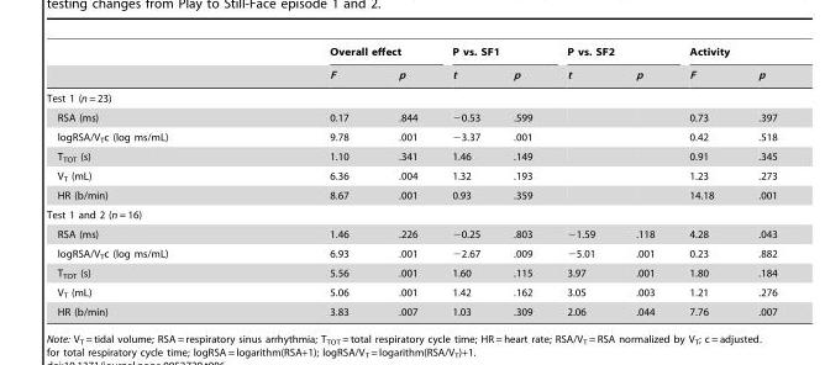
<table><thead><tr><td rowspan="2"></td><td colspan="2">Overall effect</td><td colspan="2">P vs. SF1</td><td colspan="2">P vs. SF2</td><td colspan="2">Activity</td></tr><tr><td>F</td><td>p</td><td>t</td><td>p</td><td>t</td><td>p</td><td>F</td><td>p</td></tr></thead><tbody><tr><td colspan="9">Test 1 (n = 23)</td></tr><tr><td>RSA (ms)</td><td>0.17</td><td>.844</td><td>−0.53</td><td>.599</td><td></td><td></td><td>0.73</td><td>.397</td></tr><tr><td>logRSA/V<sub>T</sub>c (log ms/mL)</td><td>9.78</td><td>.001</td><td>−3.37</td><td>.001</td><td></td><td></td><td>0.42</td><td>.518</td></tr><tr><td>T<sub>TOT</sub> (s)</td><td>1.10</td><td>.341</td><td>1.46</td><td>.149</td><td></td><td></td><td>0.91</td><td>.345</td></tr><tr><td>V<sub>T</sub> (mL)</td><td>6.36</td><td>.004</td><td>1.32</td><td>.193</td><td></td><td></td><td>1.23</td><td>.273</td></tr><tr><td>HR (b/min)</td><td>8.67</td><td>.001</td><td>0.93</td><td>.359</td><td></td><td></td><td>14.18</td><td>.001</td></tr><tr><td colspan="9">Test 1 and 2 (n = 16)</td></tr><tr><td>RSA (ms)</td><td>1.46</td><td>.226</td><td>−0.25</td><td>.803</td><td>−1.59</td><td>.118</td><td>4.28</td><td>.043</td></tr><tr><td>logRSA/V<sub>T</sub>c (log ms/mL)</td><td>6.93</td><td>.001</td><td>−2.67</td><td>.009</td><td>−5.01</td><td>.001</td><td>0.23</td><td>.882</td></tr><tr><td>T<sub>TOT</sub> (s)</td><td>5.56</td><td>.001</td><td>1.60</td><td>.115</td><td>3.97</td><td>.001</td><td>1.80</td><td>.184</td></tr><tr><td>V<sub>T</sub> (mL)</td><td>5.06</td><td>.001</td><td>1.42</td><td>.162</td><td>3.05</td><td>.003</td><td>1.21</td><td>.276</td></tr><tr><td>HR (b/min)</td><td>3.83</td><td>.007</td><td>1.03</td><td>.309</td><td>2.06</td><td>.044</td><td>7.76</td><td>.007</td></tr></tbody></table>